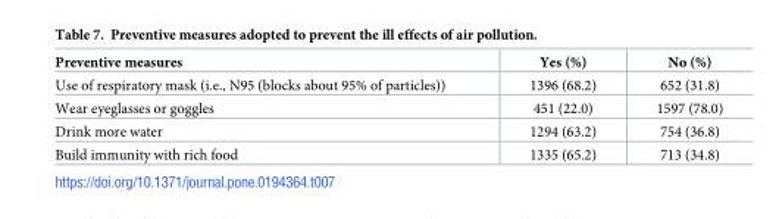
<table><thead><tr><td>Preventive measures</td><td>Yes (%)</td><td>No (%)</td></tr></thead><tbody><tr><td>Use of respiratory mask (i.e., N95 (blocks about 95% of particles))</td><td>1396 (68.2)</td><td>652 (31.8)</td></tr><tr><td>Wear eyeglasses or goggles</td><td>451 (22.0)</td><td>1597 (78.0)</td></tr><tr><td>Drink more water</td><td>1294 (63.2)</td><td>754 (36.8)</td></tr><tr><td>Build immunity with rich food</td><td>1335 (65.2)</td><td>713 (34.8)</td></tr></tbody></table>